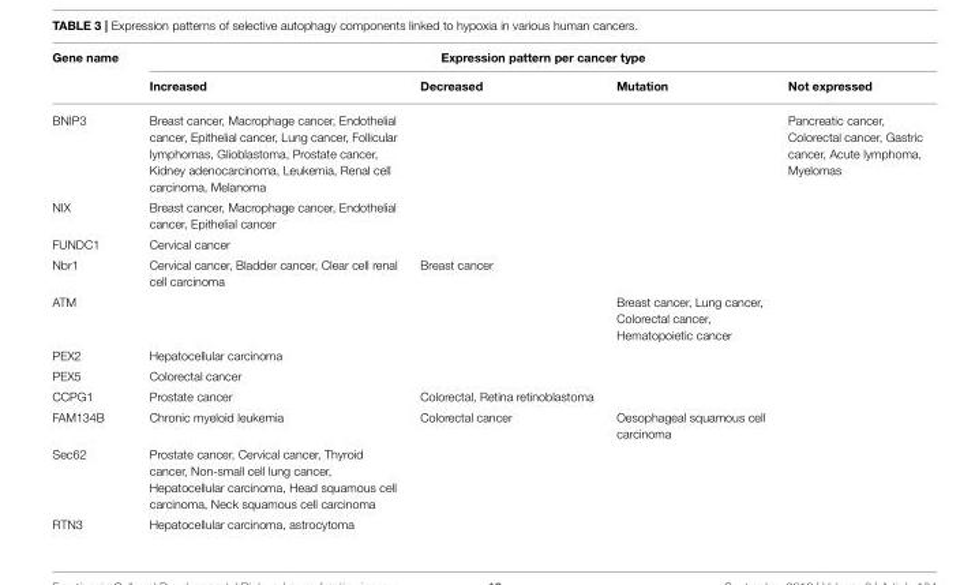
<table><thead><tr><td rowspan="2">Gene name</td><td colspan="4">Expression pattern per cancer type</td></tr><tr><td>Increased</td><td>Decreased</td><td>Mutation</td><td>Not expressed</td></tr></thead><tbody><tr><td>BNIP3</td><td>Breast cancer, Macrophage cancer, Endothelial cancer, Epithelial cancer, Lung cancer, Follicular lymphomas, Glioblastoma, Prostate cancer, Kidney adenocarcinoma, Leukemia, Renal cell carcinoma, Melanoma</td><td></td><td></td><td>Pancreatic cancer, Colorectal cancer, Gastric cancer, Acute lymphoma, Myelomas</td></tr><tr><td>NIX</td><td>Breast cancer, Macrophage cancer, Endothelial cancer, Epithelial cancer</td><td></td><td></td><td></td></tr><tr><td>FUNDC1</td><td>Cervical cancer</td><td></td><td></td><td></td></tr><tr><td>Nbr1</td><td>Cervical cancer, Bladder cancer, Clear cell renal cell carcinoma</td><td>Breast cancer</td><td></td><td></td></tr><tr><td>ATM</td><td></td><td></td><td>Breast cancer, Lung cancer, Colorectal cancer, Hematopoietic cancer</td><td></td></tr><tr><td>PEX2</td><td>Hepatocellular carcinoma</td><td></td><td></td><td></td></tr><tr><td>PEX5</td><td>Colorectal cancer</td><td></td><td></td><td></td></tr><tr><td>CCPG1</td><td>Prostate cancer</td><td>Colorectal, Retina retinoblastoma</td><td></td><td></td></tr><tr><td>FAM134B</td><td>Chronic myeloid leukemia</td><td>Colorectal cancer</td><td>Oesophageal squamous cell carcinoma</td><td></td></tr><tr><td>Sec62</td><td>Prostate cancer, Cervical cancer, Thyroid cancer, Non-small cell lung cancer, Hepatocellular carcinoma, Head squamous cell carcinoma, Neck squamous cell carcinoma</td><td></td><td></td><td></td></tr><tr><td>RTN3</td><td>Hepatocellular carcinoma, astrocytoma</td><td></td><td></td><td></td></tr></tbody></table>